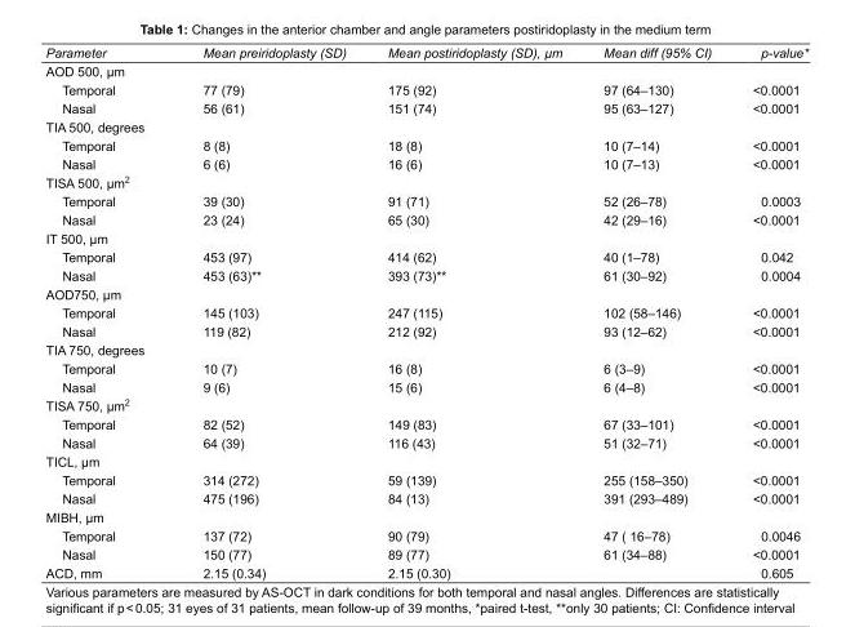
<table><tbody><tr><td>Parameter</td><td>Mean preiridoplasty (SD)</td><td>Mean postiridoplasty (SD), µm</td><td>Mean diff (95% CI)</td><td>p-value*</td></tr><tr><td colspan="5">AOD 500, µm</td></tr><tr><td>Temporal</td><td>77 (79)</td><td>175 (92)</td><td>97 (64–130)</td><td>&lt;0.0001</td></tr><tr><td>Nasal</td><td>56 (61)</td><td>151 (74)</td><td>95 (63–127)</td><td>&lt;0.0001</td></tr><tr><td colspan="5">TIA 500, degrees</td></tr><tr><td>Temporal</td><td>8 (8)</td><td>18 (8)</td><td>10 (7–14)</td><td>&lt;0.0001</td></tr><tr><td>Nasal</td><td>6 (6)</td><td>16 (6)</td><td>10 (7–13)</td><td>&lt;0.0001</td></tr><tr><td colspan="5">TISA 500, µm<sup>2</sup></td></tr><tr><td>Temporal</td><td>39 (30)</td><td>91 (71)</td><td>52 (26–78)</td><td>0.0003</td></tr><tr><td>Nasal</td><td>23 (24)</td><td>65 (30)</td><td>42 (29–16)</td><td>&lt;0.0001</td></tr><tr><td colspan="5">IT 500, µm</td></tr><tr><td>Temporal</td><td>453 (97)</td><td>414 (62)</td><td>40 (1–78)</td><td>0.042</td></tr><tr><td>Nasal</td><td>453 (63)**</td><td>393 (73)**</td><td>61 (30–92)</td><td>0.0004</td></tr><tr><td colspan="5">AOD750, µm</td></tr><tr><td>Temporal</td><td>145 (103)</td><td>247 (115)</td><td>102 (58–146)</td><td>&lt;0.0001</td></tr><tr><td>Nasal</td><td>119 (82)</td><td>212 (92)</td><td>93 (12–62)</td><td>&lt;0.0001</td></tr><tr><td colspan="5">TIA 750, degrees</td></tr><tr><td>Temporal</td><td>10 (7)</td><td>16 (8)</td><td>6 (3–9)</td><td>&lt;0.0001</td></tr><tr><td>Nasal</td><td>9 (6)</td><td>15 (6)</td><td>6 (4–8)</td><td>&lt;0.0001</td></tr><tr><td colspan="5">TISA 750, µm<sup>2</sup></td></tr><tr><td>Temporal</td><td>82 (52)</td><td>149 (83)</td><td>67 (33–101)</td><td>&lt;0.0001</td></tr><tr><td>Nasal</td><td>64 (39)</td><td>116 (43)</td><td>51 (32–71)</td><td>&lt;0.0001</td></tr><tr><td colspan="5">TICL, µm</td></tr><tr><td>Temporal</td><td>314 (272)</td><td>59 (139)</td><td>255 (158–350)</td><td>&lt;0.0001</td></tr><tr><td>Nasal</td><td>475 (196)</td><td>84 (13)</td><td>391 (293–489)</td><td>&lt;0.0001</td></tr><tr><td colspan="5">MIBH, µm</td></tr><tr><td>Temporal</td><td>137 (72)</td><td>90 (79)</td><td>47 ( 16–78)</td><td>0.0046</td></tr><tr><td>Nasal</td><td>150 (77)</td><td>89 (77)</td><td>61 (34–88)</td><td>&lt;0.0001</td></tr><tr><td>ACD, mm</td><td>2.15 (0.34)</td><td>2.15 (0.30)</td><td></td><td>0.605</td></tr></tbody></table>